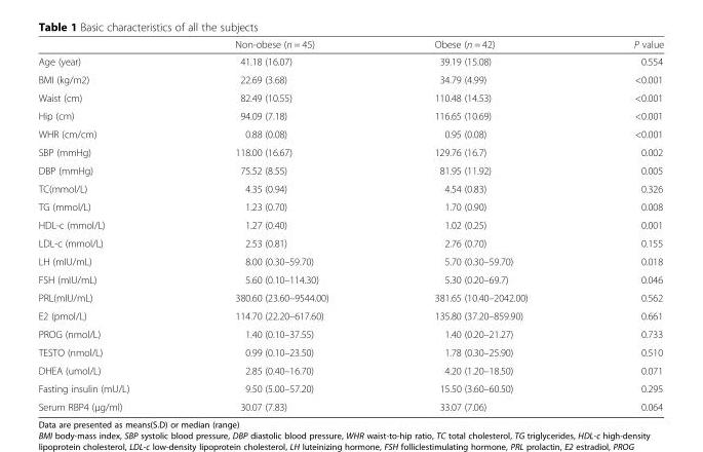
<table><thead><tr><td></td><td>Non-obese (n = 45)</td><td>Obese (n = 42)</td><td>P value</td></tr></thead><tbody><tr><td>Age (year)</td><td>41.18 (16.07)</td><td>39.19 (15.08)</td><td>0.554</td></tr><tr><td>BMI (kg/m2)</td><td>22.69 (3.68)</td><td>34.79 (4.99)</td><td>&lt;0.001</td></tr><tr><td>Waist (cm)</td><td>82.49 (10.55)</td><td>110.48 (14.53)</td><td>&lt;0.001</td></tr><tr><td>Hip (cm)</td><td>94.09 (7.18)</td><td>116.65 (10.69)</td><td>&lt;0.001</td></tr><tr><td>WHR (cm/cm)</td><td>0.88 (0.08)</td><td>0.95 (0.08)</td><td>&lt;0.001</td></tr><tr><td>SBP (mmHg)</td><td>118.00 (16.67)</td><td>129.76 (16.7)</td><td>0.002</td></tr><tr><td>DBP (mmHg)</td><td>75.52 (8.55)</td><td>81.95 (11.92)</td><td>0.005</td></tr><tr><td>TC(mmol/L)</td><td>4.35 (0.94)</td><td>4.54 (0.83)</td><td>0.326</td></tr><tr><td>TG (mmol/L)</td><td>1.23 (0.70)</td><td>1.70 (0.90)</td><td>0.008</td></tr><tr><td>HDL-c (mmol/L)</td><td>1.27 (0.40)</td><td>1.02 (0.25)</td><td>0.001</td></tr><tr><td>LDL-c (mmol/L)</td><td>2.53 (0.81)</td><td>2.76 (0.70)</td><td>0.155</td></tr><tr><td>LH (mIU/mL)</td><td>8.00 (0.30–59.70)</td><td>5.70 (0.30–59.70)</td><td>0.018</td></tr><tr><td>FSH (mIU/mL)</td><td>5.60 (0.10–114.30)</td><td>5.30 (0.20–69.7)</td><td>0.046</td></tr><tr><td>PRL(mIU/mL)</td><td>380.60 (23.60–9544.00)</td><td>381.65 (10.40–2042.00)</td><td>0.562</td></tr><tr><td>E2 (pmol/L)</td><td>114.70 (22.20–617.60)</td><td>135.80 (37.20–859.90)</td><td>0.661</td></tr><tr><td>PROG (nmol/L)</td><td>1.40 (0.10–37.55)</td><td>1.40 (0.20–21.27)</td><td>0.733</td></tr><tr><td>TESTO (nmol/L)</td><td>0.99 (0.10–23.50)</td><td>1.78 (0.30–25.90)</td><td>0.510</td></tr><tr><td>DHEA (umol/L)</td><td>2.85 (0.40–16.70)</td><td>4.20 (1.20–18.50)</td><td>0.071</td></tr><tr><td>Fasting insulin (mU/L)</td><td>9.50 (5.00–57.20)</td><td>15.50 (3.60–60.50)</td><td>0.295</td></tr><tr><td>Serum RBP4 (μg/ml)</td><td>30.07 (7.83)</td><td>33.07 (7.06)</td><td>0.064</td></tr></tbody></table>